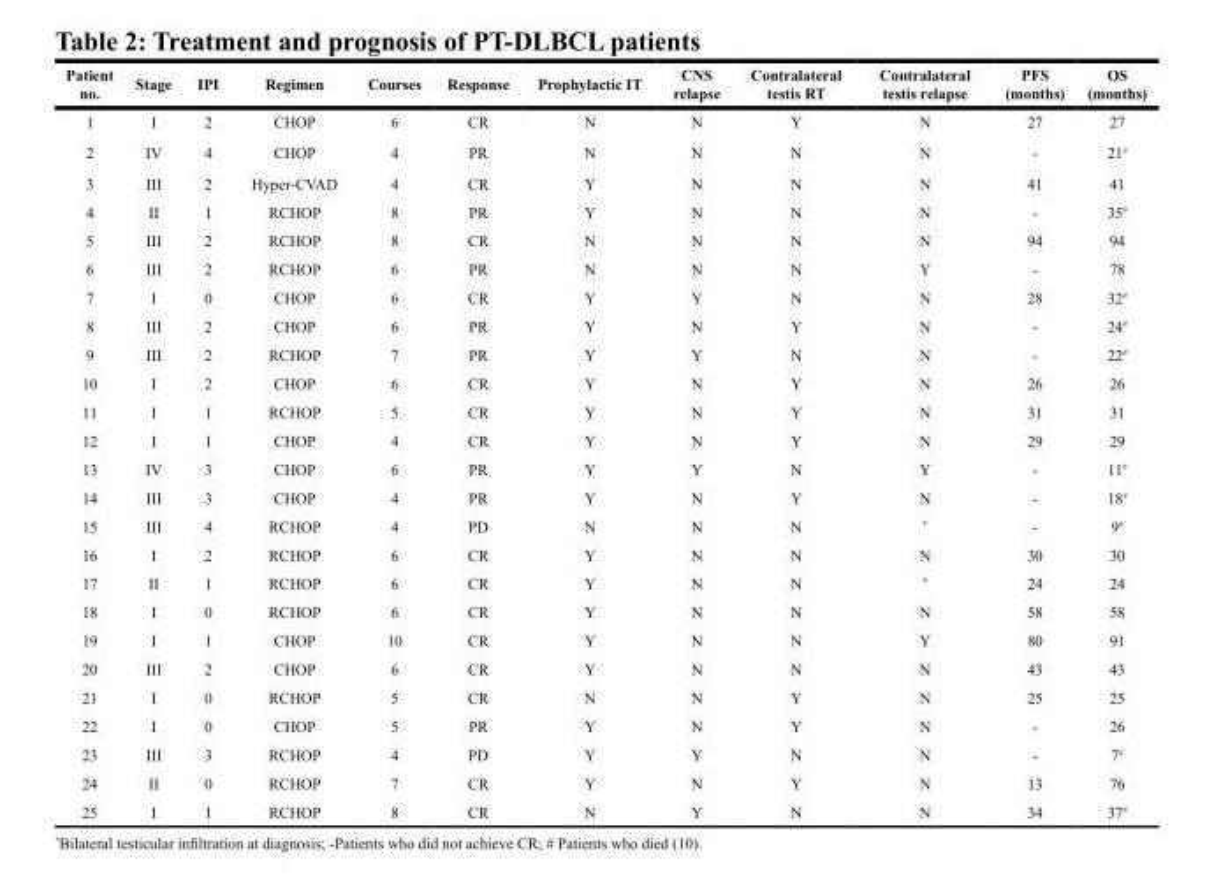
<table><thead><tr><td>Patient no.</td><td>Stage</td><td>IPI</td><td>Regimen</td><td>Courses</td><td>Response</td><td>Prophylactic IT</td><td>CNS relapse</td><td>Contralateral testis RT</td><td>Contralateral testis relapse</td><td>PFS (months)</td><td>OS (months)</td></tr></thead><tbody><tr><td>1</td><td>I</td><td>2</td><td>CHOP</td><td>6</td><td>CR</td><td>N</td><td>N</td><td>Y</td><td>N</td><td>27</td><td>27</td></tr><tr><td>2</td><td>IV</td><td>4</td><td>CHOP</td><td>4</td><td>PR</td><td>N</td><td>N</td><td>N</td><td>N</td><td>-</td><td>21<sup>#</sup></td></tr><tr><td>3</td><td>III</td><td>2</td><td>Hyper-CVAD</td><td>4</td><td>CR</td><td>Y</td><td>N</td><td>N</td><td>N</td><td>41</td><td>41</td></tr><tr><td>4</td><td>II</td><td>1</td><td>RCHOP</td><td>8</td><td>PR</td><td>Y</td><td>N</td><td>N</td><td>N</td><td>-</td><td>35<sup>#</sup></td></tr><tr><td>5</td><td>III</td><td>2</td><td>RCHOP</td><td>8</td><td>CR</td><td>N</td><td>N</td><td>N</td><td>N</td><td>94</td><td>94</td></tr><tr><td>6</td><td>III</td><td>2</td><td>RCHOP</td><td>6</td><td>PR</td><td>N</td><td>N</td><td>N</td><td>Y</td><td>-</td><td>78</td></tr><tr><td>7</td><td>I</td><td>0</td><td>CHOP</td><td>6</td><td>CR</td><td>Y</td><td>Y</td><td>N</td><td>N</td><td>28</td><td>32<sup>#</sup></td></tr><tr><td>8</td><td>III</td><td>2</td><td>CHOP</td><td>6</td><td>PR</td><td>Y</td><td>N</td><td>Y</td><td>N</td><td>-</td><td>24<sup>#</sup></td></tr><tr><td>9</td><td>III</td><td>2</td><td>RCHOP</td><td>7</td><td>PR</td><td>Y</td><td>Y</td><td>N</td><td>N</td><td>-</td><td>22<sup>#</sup></td></tr><tr><td>10</td><td>I</td><td>2</td><td>CHOP</td><td>6</td><td>CR</td><td>Y</td><td>N</td><td>Y</td><td>N</td><td>26</td><td>26</td></tr><tr><td>11</td><td>I</td><td>1</td><td>RCHOP</td><td>5</td><td>CR</td><td>Y</td><td>N</td><td>Y</td><td>N</td><td>31</td><td>31</td></tr><tr><td>12</td><td>I</td><td>1</td><td>CHOP</td><td>4</td><td>CR</td><td>Y</td><td>N</td><td>Y</td><td>N</td><td>29</td><td>29</td></tr><tr><td>13</td><td>IV</td><td>3</td><td>CHOP</td><td>6</td><td>PR</td><td>Y</td><td>Y</td><td>N</td><td>Y</td><td>-</td><td>11<sup>#</sup></td></tr><tr><td>14</td><td>III</td><td>3</td><td>CHOP</td><td>4</td><td>PR</td><td>Y</td><td>N</td><td>Y</td><td>N</td><td>-</td><td>18<sup>#</sup></td></tr><tr><td>15</td><td>III</td><td>4</td><td>RCHOP</td><td>4</td><td>PD</td><td>N</td><td>N</td><td>N</td><td>*</td><td>-</td><td>9<sup>#</sup></td></tr><tr><td>16</td><td>I</td><td>2</td><td>RCHOP</td><td>6</td><td>CR</td><td>Y</td><td>N</td><td>N</td><td>N</td><td>30</td><td>30</td></tr><tr><td>17</td><td>II</td><td>1</td><td>RCHOP</td><td>6</td><td>CR</td><td>Y</td><td>N</td><td>N</td><td>*</td><td>24</td><td>24</td></tr><tr><td>18</td><td>I</td><td>0</td><td>RCHOP</td><td>6</td><td>CR</td><td>Y</td><td>N</td><td>N</td><td>N</td><td>58</td><td>58</td></tr><tr><td>19</td><td>I</td><td>1</td><td>CHOP</td><td>10</td><td>CR</td><td>Y</td><td>N</td><td>N</td><td>Y</td><td>80</td><td>91</td></tr><tr><td>20</td><td>III</td><td>2</td><td>CHOP</td><td>6</td><td>CR</td><td>Y</td><td>N</td><td>N</td><td>N</td><td>43</td><td>43</td></tr><tr><td>21</td><td>I</td><td>0</td><td>RCHOP</td><td>5</td><td>CR</td><td>N</td><td>N</td><td>Y</td><td>N</td><td>25</td><td>25</td></tr><tr><td>22</td><td>I</td><td>0</td><td>CHOP</td><td>5</td><td>PR</td><td>Y</td><td>N</td><td>Y</td><td>N</td><td>-</td><td>26</td></tr><tr><td>23</td><td>III</td><td>3</td><td>RCHOP</td><td>4</td><td>PD</td><td>Y</td><td>Y</td><td>N</td><td>N</td><td>-</td><td>7<sup>#</sup></td></tr><tr><td>24</td><td>II</td><td>0</td><td>RCHOP</td><td>7</td><td>CR</td><td>Y</td><td>N</td><td>Y</td><td>N</td><td>13</td><td>76</td></tr><tr><td>25</td><td>I</td><td>1</td><td>RCHOP</td><td>8</td><td>CR</td><td>N</td><td>Y</td><td>N</td><td>N</td><td>34</td><td>37<sup>#</sup></td></tr></tbody></table>